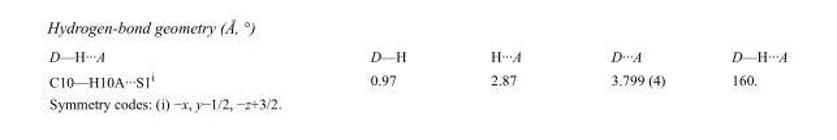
<table><tbody><tr><td>D—H···A</td><td>D—H</td><td>H···A</td><td>D···A</td><td>D—H···A</td></tr><tr><td>C10—H10A···S1<sup>i</sup></td><td>0.97</td><td>2.87</td><td>3.799 (4)</td><td>160.</td></tr></tbody></table>